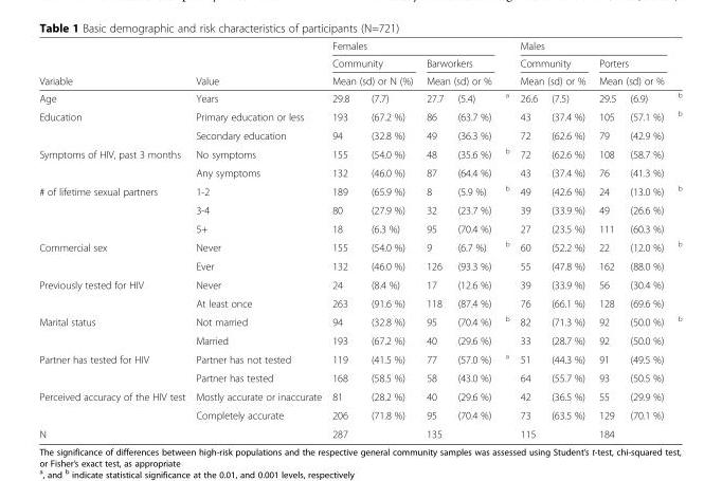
<table><thead><tr><td rowspan="4">Variable Age</td><td rowspan="4">Value Years</td><td colspan="4">Females</td><td rowspan="4"><sup>a</sup></td><td colspan="4">Males</td><td rowspan="4"><sup>b</sup></td></tr><tr><td rowspan="2" colspan="2">Community Mean (sd) or N (%)</td><td rowspan="2" colspan="2">Barworkers Mean (sd) or %</td><td rowspan="2" colspan="2">Community Mean (sd) or %</td><td rowspan="2" colspan="2">Porters Mean (sd) or %</td></tr><tr></tr><tr><td>29.8</td><td>(7.7)</td><td>27.7</td><td>(5.4)</td><td>26.6</td><td>(7.5)</td><td>29.5</td><td>(6.9)</td></tr></thead><tbody><tr><td rowspan="2">Education</td><td>Primary education or less</td><td>193</td><td>(67.2 %)</td><td>86</td><td>(63.7 %)</td><td></td><td>43</td><td>(37.4 %)</td><td>105</td><td>(57.1 %)</td><td><sup>b</sup></td></tr><tr><td>Secondary education</td><td>94</td><td>(32.8 %)</td><td>49</td><td>(36.3 %)</td><td></td><td>72</td><td>(62.6 %)</td><td>79</td><td>(42.9 %)</td><td></td></tr><tr><td rowspan="2">Symptoms of HIV, past 3 months</td><td>No symptoms</td><td>155</td><td>(54.0 %)</td><td>48</td><td>(35.6 %)</td><td><sup>b</sup></td><td>72</td><td>(62.6 %)</td><td>108</td><td>(58.7 %)</td><td></td></tr><tr><td>Any symptoms</td><td>132</td><td>(46.0 %)</td><td>87</td><td>(64.4 %)</td><td></td><td>43</td><td>(37.4 %)</td><td>76</td><td>(41.3 %)</td><td></td></tr><tr><td rowspan="3"># of lifetime sexual partners</td><td>1-2</td><td>189</td><td>(65.9 %)</td><td>8</td><td>(5.9 %)</td><td><sup>b</sup></td><td>49</td><td>(42.6 %)</td><td>24</td><td>(13.0 %)</td><td><sup>b</sup></td></tr><tr><td>3-4</td><td>80</td><td>(27.9 %)</td><td>32</td><td>(23.7 %)</td><td></td><td>39</td><td>(33.9 %)</td><td>49</td><td>(26.6 %)</td><td></td></tr><tr><td>5+</td><td>18</td><td>(6.3 %)</td><td>95</td><td>(70.4 %)</td><td></td><td>27</td><td>(23.5 %)</td><td>111</td><td>(60.3 %)</td><td></td></tr><tr><td rowspan="2">Commercial sex</td><td>Never</td><td>155</td><td>(54.0 %)</td><td>9</td><td>(6.7 %)</td><td><sup>b</sup></td><td>60</td><td>(52.2 %)</td><td>22</td><td>(12.0 %)</td><td><sup>b</sup></td></tr><tr><td>Ever</td><td>132</td><td>(46.0 %)</td><td>126</td><td>(93.3 %)</td><td></td><td>55</td><td>(47.8 %)</td><td>162</td><td>(88.0 %)</td><td></td></tr><tr><td rowspan="2">Previously tested for HIV</td><td>Never</td><td>24</td><td>(8.4 %)</td><td>17</td><td>(12.6 %)</td><td></td><td>39</td><td>(33.9 %)</td><td>56</td><td>(30.4 %)</td><td></td></tr><tr><td>At least once</td><td>263</td><td>(91.6 %)</td><td>118</td><td>(87.4 %)</td><td></td><td>76</td><td>(66.1 %)</td><td>128</td><td>(69.6 %)</td><td></td></tr><tr><td rowspan="2">Marital status</td><td>Not married</td><td>94</td><td>(32.8 %)</td><td>95</td><td>(70.4 %)</td><td><sup>b</sup></td><td>82</td><td>(71.3 %)</td><td>92</td><td>(50.0 %)</td><td><sup>b</sup></td></tr><tr><td>Married</td><td>193</td><td>(67.2 %)</td><td>40</td><td>(29.6 %)</td><td></td><td>33</td><td>(28.7 %)</td><td>92</td><td>(50.0 %)</td><td></td></tr><tr><td rowspan="2">Partner has tested for HIV</td><td>Partner has not tested</td><td>119</td><td>(41.5 %)</td><td>77</td><td>(57.0 %)</td><td><sup>a</sup></td><td>51</td><td>(44.3 %)</td><td>91</td><td>(49.5 %)</td><td></td></tr><tr><td>Partner has tested</td><td>168</td><td>(58.5 %)</td><td>58</td><td>(43.0 %)</td><td></td><td>64</td><td>(55.7 %)</td><td>93</td><td>(50.5 %)</td><td></td></tr><tr><td rowspan="2">Perceived accuracy of the HIV test</td><td>Mostly accurate or inaccurate</td><td>81</td><td>(28.2 %)</td><td>40</td><td>(29.6 %)</td><td></td><td>42</td><td>(36.5 %)</td><td>55</td><td>(29.9 %)</td><td></td></tr><tr><td>Completely accurate</td><td>206</td><td>(71.8 %)</td><td>95</td><td>(70.4 %)</td><td></td><td>73</td><td>(63.5 %)</td><td>129</td><td>(70.1 %)</td><td></td></tr><tr><td>N</td><td></td><td>287</td><td></td><td>135</td><td></td><td></td><td>115</td><td></td><td>184</td><td></td><td></td></tr></tbody></table>